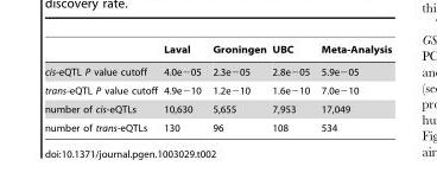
<table><thead><tr><td></td><td>Laval</td><td>Groningen</td><td>UBC</td><td>Meta-Analysis</td></tr></thead><tbody><tr><td>cis-eQTL P value cutoff</td><td>4.0e−05</td><td>2.3e−05</td><td>2.8e−05</td><td>5.9e−05</td></tr><tr><td>trans-eQTL P value cutoff</td><td>4.9e−10</td><td>1.2e−10</td><td>1.6e−10</td><td>7.0e−10</td></tr><tr><td>number of cis-eQTLs</td><td>10,630</td><td>5,655</td><td>7,953</td><td>17,049</td></tr><tr><td>number of trans-eQTLs</td><td>130</td><td>96</td><td>108</td><td>534</td></tr></tbody></table>